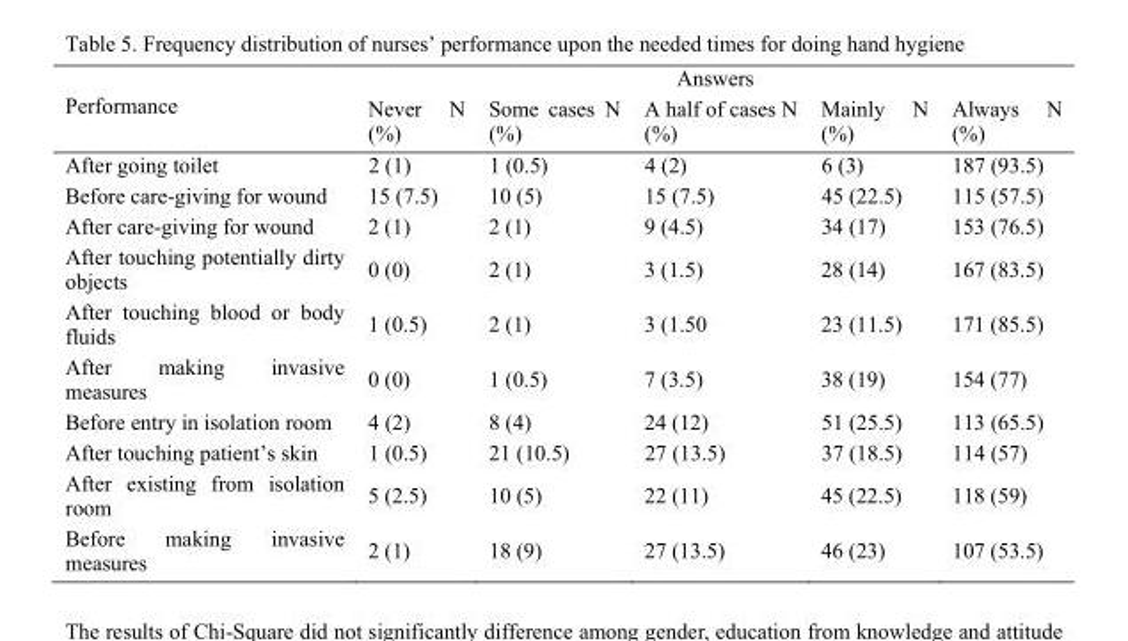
<table><thead><tr><td rowspan="2">Performance</td><td colspan="5">Answers</td></tr><tr><td>Never N (%)</td><td>Some cases N (%)</td><td>A half of cases N (%)</td><td>Mainly N (%)</td><td>Always N (%)</td></tr></thead><tbody><tr><td>After going toilet</td><td>2 (1)</td><td>1 (0.5)</td><td>4 (2)</td><td>6 (3)</td><td>187 (93.5)</td></tr><tr><td>Before care-giving for wound</td><td>15 (7.5)</td><td>10 (5)</td><td>15 (7.5)</td><td>45 (22.5)</td><td>115 (57.5)</td></tr><tr><td>After care-giving for wound</td><td>2 (1)</td><td>2 (1)</td><td>9 (4.5)</td><td>34 (17)</td><td>153 (76.5)</td></tr><tr><td>After touching potentially dirty objects</td><td>0 (0)</td><td>2 (1)</td><td>3 (1.5)</td><td>28 (14)</td><td>167 (83.5)</td></tr><tr><td>After touching blood or body fluids</td><td>1 (0.5)</td><td>2 (1)</td><td>3 (1.50</td><td>23 (11.5)</td><td>171 (85.5)</td></tr><tr><td>After making invasive measures</td><td>0 (0)</td><td>1 (0.5)</td><td>7 (3.5)</td><td>38 (19)</td><td>154 (77)</td></tr><tr><td>Before entry in isolation room</td><td>4 (2)</td><td>8 (4)</td><td>24 (12)</td><td>51 (25.5)</td><td>113 (65.5)</td></tr><tr><td>After touching patient’s skin</td><td>1 (0.5)</td><td>21 (10.5)</td><td>27 (13.5)</td><td>37 (18.5)</td><td>114 (57)</td></tr><tr><td>After existing from isolation room</td><td>5 (2.5)</td><td>10 (5)</td><td>22 (11)</td><td>45 (22.5)</td><td>118 (59)</td></tr><tr><td>Before making invasive measures</td><td>2 (1)</td><td>18 (9)</td><td>27 (13.5)</td><td>46 (23)</td><td>107 (53.5)</td></tr></tbody></table>